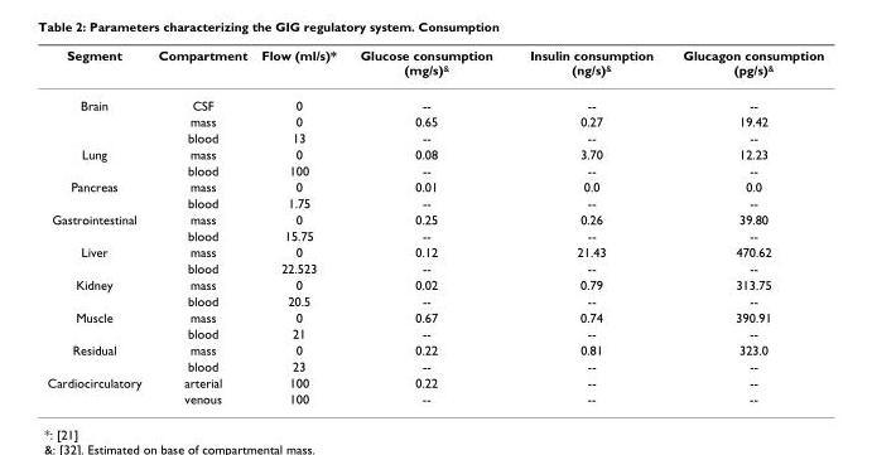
<table><thead><tr><td>Segment</td><td>Compartment</td><td>Flow (ml/s)*</td><td>Glucose consumption (mg/s)<sup>&amp;</sup></td><td>Insulin consumption (ng/s)<sup>&amp;</sup></td><td>Glucagon consumption (pg/s)<sup>&amp;</sup></td></tr></thead><tbody><tr><td rowspan="3">Brain</td><td>CSF</td><td>0</td><td>--</td><td>--</td><td>--</td></tr><tr><td>mass</td><td>0</td><td>0.65</td><td>0.27</td><td>19.42</td></tr><tr><td>blood</td><td>13</td><td>--</td><td>--</td><td>--</td></tr><tr><td rowspan="2">Lung</td><td>mass</td><td>0</td><td>0.08</td><td>3.70</td><td>12.23</td></tr><tr><td>blood</td><td>100</td><td>--</td><td>--</td><td>--</td></tr><tr><td rowspan="2">Pancreas</td><td>mass</td><td>0</td><td>0.01</td><td>0.0</td><td>0.0</td></tr><tr><td>blood</td><td>1.75</td><td>--</td><td>--</td><td>--</td></tr><tr><td rowspan="2">Gastrointestinal</td><td>mass</td><td>0</td><td>0.25</td><td>0.26</td><td>39.80</td></tr><tr><td>blood</td><td>15.75</td><td>--</td><td>--</td><td>--</td></tr><tr><td rowspan="2">Liver</td><td>mass</td><td>0</td><td>0.12</td><td>21.43</td><td>470.62</td></tr><tr><td>blood</td><td>22.523</td><td>--</td><td>--</td><td>--</td></tr><tr><td rowspan="2">Kidney</td><td>mass</td><td>0</td><td>0.02</td><td>0.79</td><td>313.75</td></tr><tr><td>blood</td><td>20.5</td><td>--</td><td>--</td><td>--</td></tr><tr><td rowspan="2">Muscle</td><td>mass</td><td>0</td><td>0.67</td><td>0.74</td><td>390.91</td></tr><tr><td>blood</td><td>21</td><td>--</td><td>--</td><td>--</td></tr><tr><td rowspan="2">Residual</td><td>mass</td><td>0</td><td>0.22</td><td>0.81</td><td>323.0</td></tr><tr><td>blood</td><td>23</td><td>--</td><td>--</td><td>--</td></tr><tr><td rowspan="2">Cardiocirculatory</td><td>arterial</td><td>100</td><td>0.22</td><td>--</td><td>--</td></tr><tr><td>venous</td><td>100</td><td>--</td><td>--</td><td>--</td></tr></tbody></table>